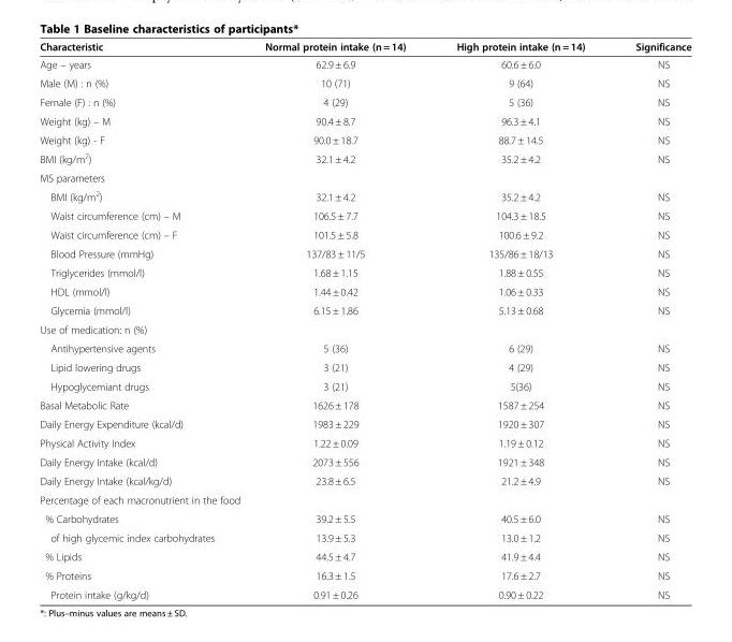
<table><thead><tr><td>Characteristic</td><td>Normal protein intake (n = 14)</td><td>High protein intake (n = 14)</td><td>Significance</td></tr></thead><tbody><tr><td>Age – years</td><td>62.9 ± 6.9</td><td>60.6 ± 6.0</td><td>NS</td></tr><tr><td>Male (M) : n (%)</td><td>10 (71)</td><td>9 (64)</td><td>NS</td></tr><tr><td>Female (F) : n (%)</td><td>4 (29)</td><td>5 (36)</td><td>NS</td></tr><tr><td>Weight (kg) – M</td><td>90.4 ± 8.7</td><td>96.3 ± 4.1</td><td>NS</td></tr><tr><td>Weight (kg) - F</td><td>90.0 ± 18.7</td><td>88.7 ± 14.5</td><td>NS</td></tr><tr><td>BMI (kg/m<sup>2</sup>)</td><td>32.1 ± 4.2</td><td>35.2 ± 4.2</td><td>NS</td></tr><tr><td colspan="4">MS parameters</td></tr><tr><td>BMI (kg/m<sup>2</sup>)</td><td>32.1 ± 4.2</td><td>35.2 ± 4.2</td><td>NS</td></tr><tr><td>Waist circumference (cm) – M</td><td>106.5 ± 7.7</td><td>104.3 ± 18.5</td><td>NS</td></tr><tr><td>Waist circumference (cm) – F</td><td>101.5 ± 5.8</td><td>100.6 ± 9.2</td><td>NS</td></tr><tr><td>Blood Pressure (mmHg)</td><td>137/83 ± 11/5</td><td>135/86 ± 18/13</td><td>NS</td></tr><tr><td>Triglycerides (mmol/l)</td><td>1.68 ± 1.15</td><td>1.88 ± 0.55</td><td>NS</td></tr><tr><td>HDL (mmol/l)</td><td>1.44 ± 0.42</td><td>1.06 ± 0.33</td><td>NS</td></tr><tr><td>Glycemia (mmol/l)</td><td>6.15 ± 1.86</td><td>5.13 ± 0.68</td><td>NS</td></tr><tr><td colspan="4">Use of medication: n (%)</td></tr><tr><td>Antihypertensive agents</td><td>5 (36)</td><td>6 (29)</td><td>NS</td></tr><tr><td>Lipid lowering drugs</td><td>3 (21)</td><td>4 (29)</td><td>NS</td></tr><tr><td>Hypoglycemiant drugs</td><td>3 (21)</td><td>5(36)</td><td>NS</td></tr><tr><td>Basal Metabolic Rate</td><td>1626 ± 178</td><td>1587 ± 254</td><td>NS</td></tr><tr><td>Daily Energy Expenditure (kcal/d)</td><td>1983 ± 229</td><td>1920 ± 307</td><td>NS</td></tr><tr><td>Physical Activity Index</td><td>1.22 ± 0.09</td><td>1.19 ± 0.12</td><td>NS</td></tr><tr><td>Daily Energy Intake (kcal/d)</td><td>2073 ± 556</td><td>1921 ± 348</td><td>NS</td></tr><tr><td>Daily Energy Intake (kcal/kg/d)</td><td>23.8 ± 6.5</td><td>21.2 ± 4.9</td><td>NS</td></tr><tr><td colspan="4">Percentage of each macronutrient in the food</td></tr><tr><td>% Carbohydrates</td><td>39.2 ± 5.5</td><td>40.5 ± 6.0</td><td>NS</td></tr><tr><td>of high glycemic index carbohydrates</td><td>13.9 ± 5.3</td><td>13.0 ± 1.2</td><td>NS</td></tr><tr><td>% Lipids</td><td>44.5 ± 4.7</td><td>41.9 ± 4.4</td><td>NS</td></tr><tr><td>% Proteins</td><td>16.3 ± 1.5</td><td>17.6 ± 2.7</td><td>NS</td></tr><tr><td>Protein intake (g/kg/d)</td><td>0.91 ± 0.26</td><td>0.90 ± 0.22</td><td>NS</td></tr></tbody></table>